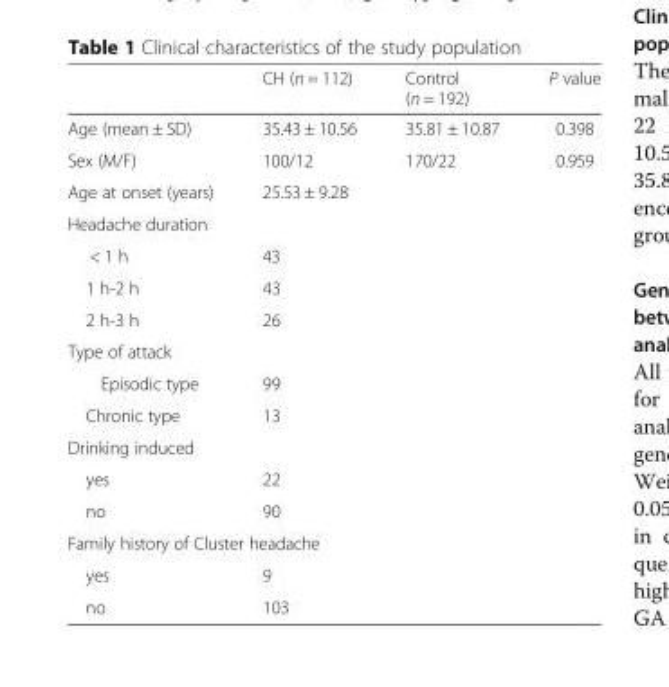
<table><thead><tr><td></td><td>CH (n = 112)</td><td>Control (n = 192)</td><td>P value</td></tr></thead><tbody><tr><td>Age (mean ± SD)</td><td>35.43 ± 10.56</td><td>35.81 ± 10.87</td><td>0.398</td></tr><tr><td>Sex (M/F)</td><td>100/12</td><td>170/22</td><td>0.959</td></tr><tr><td>Age at onset (years)</td><td>25.53 ± 9.28</td><td></td><td></td></tr><tr><td colspan="4">Headache duration</td></tr><tr><td>&lt; 1 h</td><td>43</td><td></td><td></td></tr><tr><td>1 h-2 h</td><td>43</td><td></td><td></td></tr><tr><td>2 h-3 h</td><td>26</td><td></td><td></td></tr><tr><td colspan="4">Type of attack</td></tr><tr><td>Episodic type</td><td>99</td><td></td><td></td></tr><tr><td>Chronic type</td><td>13</td><td></td><td></td></tr><tr><td colspan="4">Drinking induced</td></tr><tr><td>yes</td><td>22</td><td></td><td></td></tr><tr><td>no</td><td>90</td><td></td><td></td></tr><tr><td colspan="4">Family history of Cluster headache</td></tr><tr><td>yes</td><td>9</td><td></td><td></td></tr><tr><td>no</td><td>103</td><td></td><td></td></tr></tbody></table>